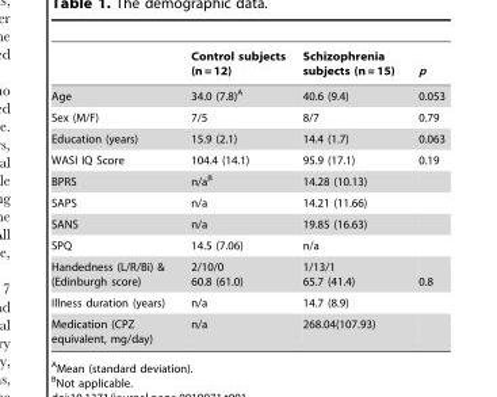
<table><thead><tr><td></td><td>Control subjects (n = 12)</td><td>Schizophrenia subjects (n = 15)</td><td>p</td></tr></thead><tbody><tr><td>Age</td><td>34.0 (7.8)<sup>A</sup></td><td>40.6 (9.4)</td><td>0.053</td></tr><tr><td>Sex (M/F)</td><td>7/5</td><td>8/7</td><td>0.79</td></tr><tr><td>Education (years)</td><td>15.9 (2.1)</td><td>14.4 (1.7)</td><td>0.063</td></tr><tr><td>WASI IQ Score</td><td>104.4 (14.1)</td><td>95.9 (17.1)</td><td>0.19</td></tr><tr><td>BPRS</td><td>n/a<sup>B</sup></td><td>14.28 (10.13)</td><td></td></tr><tr><td>SAPS</td><td>n/a</td><td>14.21 (11.66)</td><td></td></tr><tr><td>SANS</td><td>n/a</td><td>19.85 (16.63)</td><td></td></tr><tr><td>SPQ</td><td>14.5 (7.06)</td><td>n/a</td><td></td></tr><tr><td>Handedness (L/R/Bi) &amp; (Edinburgh score)</td><td>2/10/0 60.8 (61.0)</td><td>1/13/1 65.7 (41.4)</td><td>0.8</td></tr><tr><td>Illness duration (years)</td><td>n/a</td><td>14.7 (8.9)</td><td></td></tr><tr><td>Medication (CPZ equivalent, mg/day)</td><td>n/a</td><td>268.04(107.93)</td><td></td></tr></tbody></table>